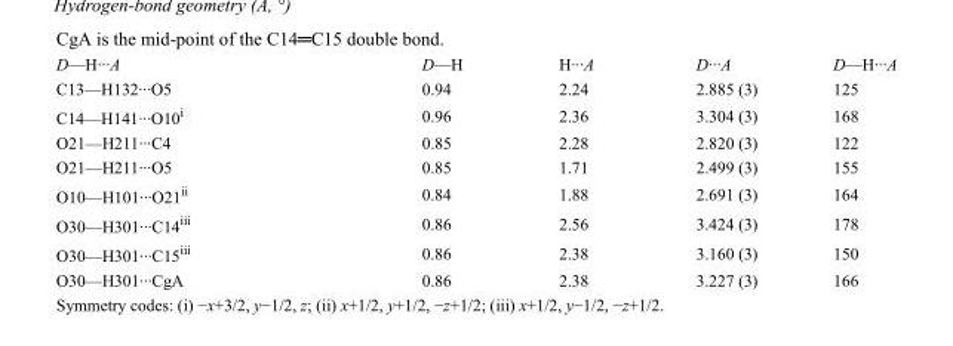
<table><tbody><tr><td>D—H···A</td><td>D—H</td><td>H···A</td><td>D···A</td><td>D—H···A</td></tr><tr><td>C13—H132···O5</td><td>0.94</td><td>2.24</td><td>2.885 (3)</td><td>125</td></tr><tr><td>C14—H141···O10<sup>i</sup></td><td>0.96</td><td>2.36</td><td>3.304 (3)</td><td>168</td></tr><tr><td>O21—H211···C4</td><td>0.85</td><td>2.28</td><td>2.820 (3)</td><td>122</td></tr><tr><td>O21—H211···O5</td><td>0.85</td><td>1.71</td><td>2.499 (3)</td><td>155</td></tr><tr><td>O10—H101···O21<sup>ii</sup></td><td>0.84</td><td>1.88</td><td>2.691 (3)</td><td>164</td></tr><tr><td>O30—H301···C14<sup>iii</sup></td><td>0.86</td><td>2.56</td><td>3.424 (3)</td><td>178</td></tr><tr><td>O30—H301···C15<sup>iii</sup></td><td>0.86</td><td>2.38</td><td>3.160 (3)</td><td>150</td></tr><tr><td>O30—H301···CgA</td><td>0.86</td><td>2.38</td><td>3.227 (3)</td><td>166</td></tr></tbody></table>